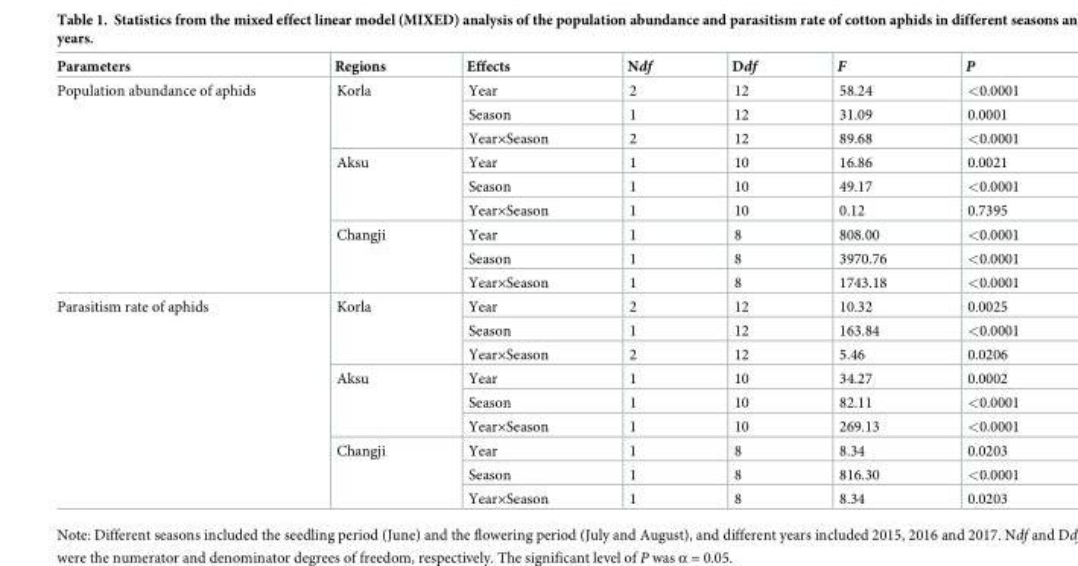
<table><thead><tr><td>Parameters</td><td>Regions</td><td>Effects</td><td>Ndf</td><td>Ddf</td><td>F</td><td>P</td></tr></thead><tbody><tr><td rowspan="9">Population abundance of aphids</td><td rowspan="3">Korla</td><td>Year</td><td>2</td><td>12</td><td>58.24</td><td>&lt;0.0001</td></tr><tr><td>Season</td><td>1</td><td>12</td><td>31.09</td><td>0.0001</td></tr><tr><td>Year×Season</td><td>2</td><td>12</td><td>89.68</td><td>&lt;0.0001</td></tr><tr><td rowspan="3">Aksu</td><td>Year</td><td>1</td><td>10</td><td>16.86</td><td>0.0021</td></tr><tr><td>Season</td><td>1</td><td>10</td><td>49.17</td><td>&lt;0.0001</td></tr><tr><td>Year×Season</td><td>1</td><td>10</td><td>0.12</td><td>0.7395</td></tr><tr><td rowspan="3">Changji</td><td>Year</td><td>1</td><td>8</td><td>808.00</td><td>&lt;0.0001</td></tr><tr><td>Season</td><td>1</td><td>8</td><td>3970.76</td><td>&lt;0.0001</td></tr><tr><td>Year×Season</td><td>1</td><td>8</td><td>1743.18</td><td>&lt;0.0001</td></tr><tr><td rowspan="9">Parasitism rate of aphids</td><td rowspan="3">Korla</td><td>Year</td><td>2</td><td>12</td><td>10.32</td><td>0.0025</td></tr><tr><td>Season</td><td>1</td><td>12</td><td>163.84</td><td>&lt;0.0001</td></tr><tr><td>Year×Season</td><td>2</td><td>12</td><td>5.46</td><td>0.0206</td></tr><tr><td rowspan="3">Aksu</td><td>Year</td><td>1</td><td>10</td><td>34.27</td><td>0.0002</td></tr><tr><td>Season</td><td>1</td><td>10</td><td>82.11</td><td>&lt;0.0001</td></tr><tr><td>Year×Season</td><td>1</td><td>10</td><td>269.13</td><td>&lt;0.0001</td></tr><tr><td rowspan="3">Changji</td><td>Year</td><td>1</td><td>8</td><td>8.34</td><td>0.0203</td></tr><tr><td>Season</td><td>1</td><td>8</td><td>816.30</td><td>&lt;0.0001</td></tr><tr><td>Year×Season</td><td>1</td><td>8</td><td>8.34</td><td>0.0203</td></tr></tbody></table>